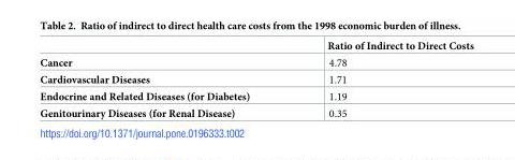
<table><thead><tr><td></td><td>Ratio of Indirect to Direct Costs</td></tr></thead><tbody><tr><td>Cancer</td><td>4.78</td></tr><tr><td>Cardiovascular Diseases</td><td>1.71</td></tr><tr><td>Endocrine and Related Diseases (for Diabetes)</td><td>1.19</td></tr><tr><td>Genitourinary Diseases (for Renal Disease)</td><td>0.35</td></tr></tbody></table>